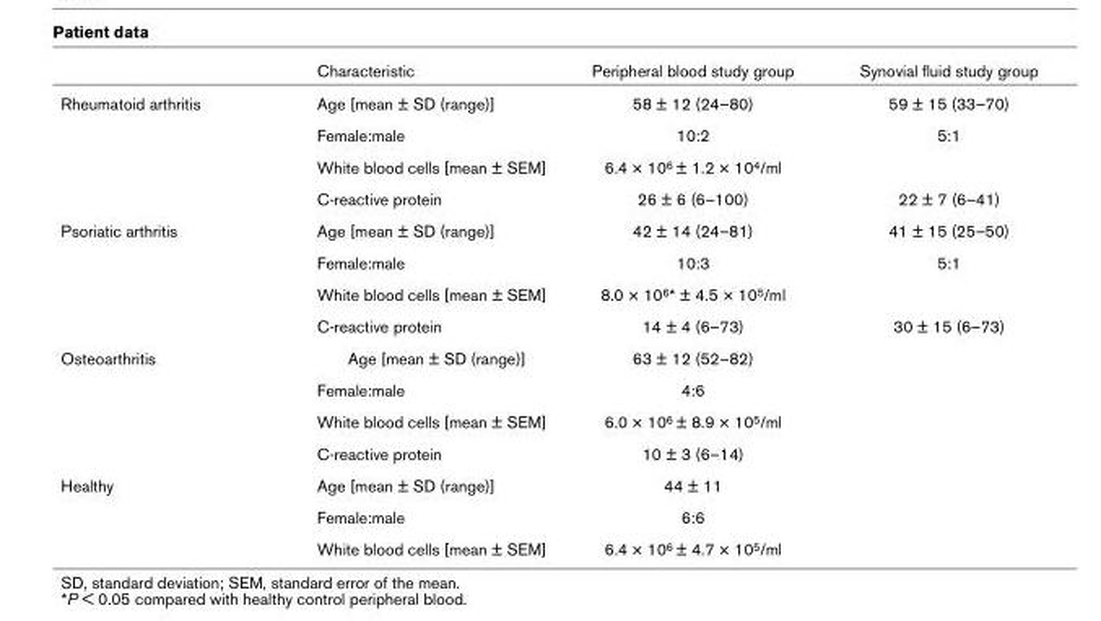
<table><thead><tr><td></td><td>Characteristic</td><td>Peripheral blood study group</td><td>Synovial fluid study group</td></tr></thead><tbody><tr><td rowspan="4">Rheumatoid arthritis</td><td>Age [mean ± SD (range)]</td><td>58 ± 12 (24–80)</td><td>59 ± 15 (33–70)</td></tr><tr><td>Female:male</td><td>10:2</td><td>5:1</td></tr><tr><td>White blood cells [mean ± SEM]</td><td>6.4 × 106 ± 1.2 × 104/ml</td><td></td></tr><tr><td>C-reactive protein</td><td>26 ± 6 (6–100)</td><td>22 ± 7 (6–41)</td></tr><tr><td rowspan="4">Psoriatic arthritis</td><td>Age [mean ± SD (range)]</td><td>42 ± 14 (24–81)</td><td>41 ± 15 (25–50)</td></tr><tr><td>Female:male</td><td>10:3</td><td>5:1</td></tr><tr><td>White blood cells [mean ± SEM]</td><td>8.0 × 106* ± 4.5 × 105/ml</td><td></td></tr><tr><td>C-reactive protein</td><td>14 ± 4 (6–73)</td><td>30 ± 15 (6–73)</td></tr><tr><td rowspan="4">Osteoarthritis</td><td>Age [mean ± SD (range)]</td><td>63 ± 12 (52–82)</td><td></td></tr><tr><td>Female:male</td><td>4:6</td><td></td></tr><tr><td>White blood cells [mean ± SEM]</td><td>6.0 × 106 ± 8.9 × 105/ml</td><td></td></tr><tr><td>C-reactive protein</td><td>10 ± 3 (6–14)</td><td></td></tr><tr><td rowspan="3">Healthy</td><td>Age [mean ± SD (range)]</td><td>44 ± 11</td><td></td></tr><tr><td>Female:male</td><td>6:6</td><td></td></tr><tr><td>White blood cells [mean ± SEM]</td><td>6.4 × 106 ± 4.7 × 105/ml</td><td></td></tr></tbody></table>